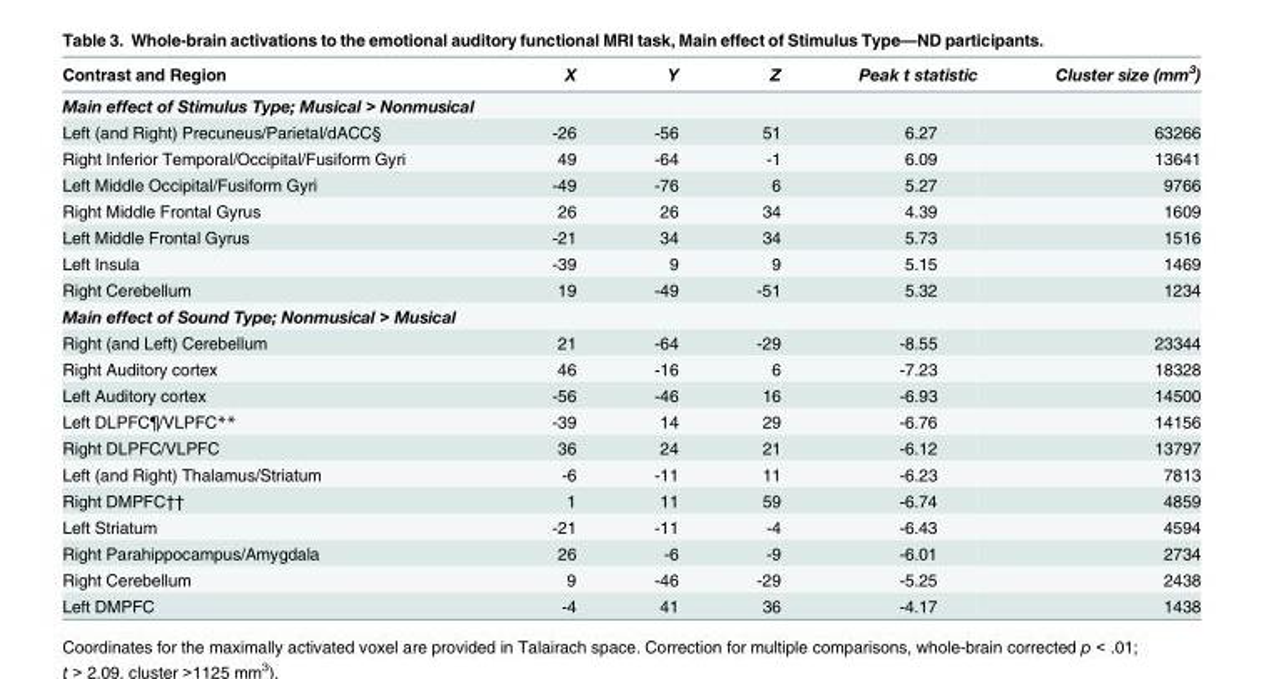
<table><thead><tr><td>Contrast and Region</td><td>X</td><td>Y</td><td>Z</td><td>Peak t statistic</td><td>Cluster size (mm<sup>3</sup>)</td></tr></thead><tbody><tr><td colspan="6">Main effect of Stimulus Type; Musical &gt; Nonmusical</td></tr><tr><td>Left (and Right) Precuneus/Parietal/dACC§</td><td>-26</td><td>-56</td><td>51</td><td>6.27</td><td>63266</td></tr><tr><td>Right Inferior Temporal/Occipital/Fusiform Gyri</td><td>49</td><td>-64</td><td>-1</td><td>6.09</td><td>13641</td></tr><tr><td>Left Middle Occipital/Fusiform Gyri</td><td>-49</td><td>-76</td><td>6</td><td>5.27</td><td>9766</td></tr><tr><td>Right Middle Frontal Gyrus</td><td>26</td><td>26</td><td>34</td><td>4.39</td><td>1609</td></tr><tr><td>Left Middle Frontal Gyrus</td><td>-21</td><td>34</td><td>34</td><td>5.73</td><td>1516</td></tr><tr><td>Left Insula</td><td>-39</td><td>9</td><td>9</td><td>5.15</td><td>1469</td></tr><tr><td>Right Cerebellum</td><td>19</td><td>-49</td><td>-51</td><td>5.32</td><td>1234</td></tr><tr><td colspan="6">Main effect of Sound Type; Nonmusical &gt; Musical</td></tr><tr><td>Right (and Left) Cerebellum</td><td>21</td><td>-64</td><td>-29</td><td>-8.55</td><td>23344</td></tr><tr><td>Right Auditory cortex</td><td>46</td><td>-16</td><td>6</td><td>-7.23</td><td>18328</td></tr><tr><td>Left Auditory cortex</td><td>-56</td><td>-46</td><td>16</td><td>-6.93</td><td>14500</td></tr><tr><td>Left DLPFC¶/VLPFC**</td><td>-39</td><td>14</td><td>29</td><td>-6.76</td><td>14156</td></tr><tr><td>Right DLPFC/VLPFC</td><td>36</td><td>24</td><td>21</td><td>-6.12</td><td>13797</td></tr><tr><td>Left (and Right) Thalamus/Striatum</td><td>-6</td><td>-11</td><td>11</td><td>-6.23</td><td>7813</td></tr><tr><td>Right DMPFC††</td><td>1</td><td>11</td><td>59</td><td>-6.74</td><td>4859</td></tr><tr><td>Left Striatum</td><td>-21</td><td>-11</td><td>-4</td><td>-6.43</td><td>4594</td></tr><tr><td>Right Parahippocampus/Amygdala</td><td>26</td><td>-6</td><td>-9</td><td>-6.01</td><td>2734</td></tr><tr><td>Right Cerebellum</td><td>9</td><td>-46</td><td>-29</td><td>-5.25</td><td>2438</td></tr><tr><td>Left DMPFC</td><td>-4</td><td>41</td><td>36</td><td>-4.17</td><td>1438</td></tr></tbody></table>